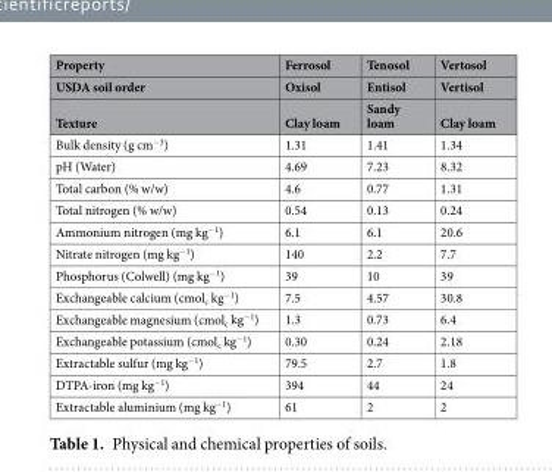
<table><thead><tr><td rowspan="3">Property USDA soil order Texture</td><td rowspan="3">Ferrosol Oxisol Clay loam</td><td rowspan="3">Tenosol Entisol Sandy loam</td><td rowspan="3">Vertosol Vertisol Clay loam</td></tr><tr></tr><tr></tr></thead><tbody><tr><td>Bulk density (g cm<sup>−3</sup>)</td><td>1.31</td><td>1.41</td><td>1.34</td></tr><tr><td>pH (Water)</td><td>4.69</td><td>7.23</td><td>8.32</td></tr><tr><td>Total carbon (% w/w)</td><td>4.6</td><td>0.77</td><td>1.31</td></tr><tr><td>Total nitrogen (% w/w)</td><td>0.54</td><td>0.13</td><td>0.24</td></tr><tr><td>Ammonium nitrogen (mg kg<sup>−1</sup>)</td><td>6.1</td><td>6.1</td><td>20.6</td></tr><tr><td>Nitrate nitrogen (mg kg<sup>−1</sup>)</td><td>140</td><td>2.2</td><td>7.7</td></tr><tr><td>Phosphorus (Colwell) (mg kg<sup>−1</sup>)</td><td>39</td><td>10</td><td>39</td></tr><tr><td>Exchangeable calcium (cmol<sub>c</sub> kg<sup>−1</sup>)</td><td>7.5</td><td>4.57</td><td>30.8</td></tr><tr><td>Exchangeable magnesium (cmol<sub>c</sub> kg<sup>−1</sup>)</td><td>1.3</td><td>0.73</td><td>6.4</td></tr><tr><td>Exchangeable potassium (cmol<sub>c</sub> kg<sup>−1</sup>)</td><td>0.30</td><td>0.24</td><td>2.18</td></tr><tr><td>Extractable sulfur (mg kg<sup>−1</sup>)</td><td>79.5</td><td>2.7</td><td>1.8</td></tr><tr><td>DTPA-iron (mg kg<sup>−1</sup>)</td><td>394</td><td>44</td><td>24</td></tr><tr><td>Extractable aluminium (mg kg<sup>−1</sup>)</td><td>61</td><td>2</td><td>2</td></tr></tbody></table>